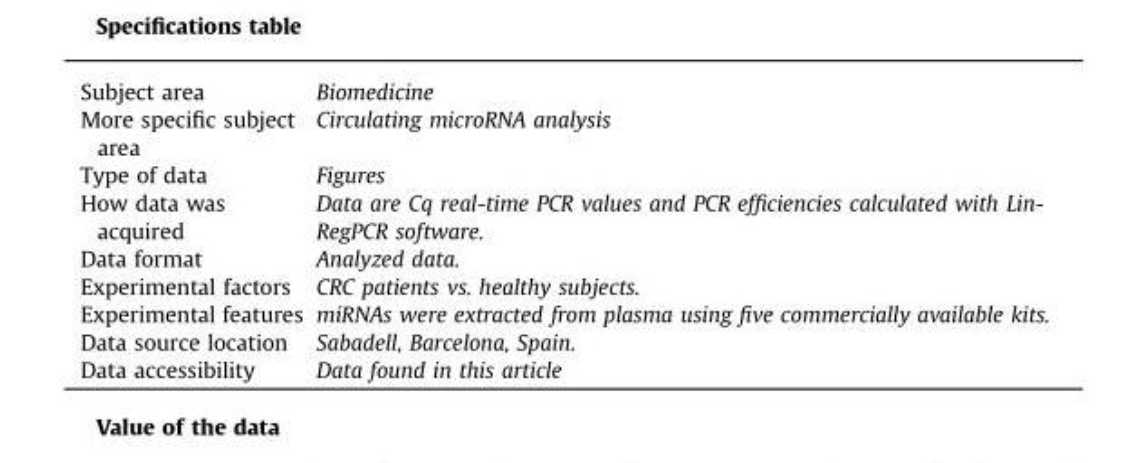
<table><tbody><tr><td>Subject area</td><td>Biomedicine</td></tr><tr><td>More specific subject area</td><td>Circulating microRNA analysis</td></tr><tr><td>Type of data</td><td>Figures</td></tr><tr><td>How data was acquired</td><td>Data are Cq real-time PCR values and PCR efficiencies calculated with Lin- RegPCR software.</td></tr><tr><td>Data format</td><td>Analyzed data.</td></tr><tr><td>Experimental factors</td><td>CRC patients vs. healthy subjects.</td></tr><tr><td>Experimental features</td><td>miRNAs were extracted from plasma using five commercially available kits.</td></tr><tr><td>Data source location</td><td>Sabadell, Barcelona, Spain.</td></tr><tr><td>Data accessibility</td><td>Data found in this article</td></tr></tbody></table>